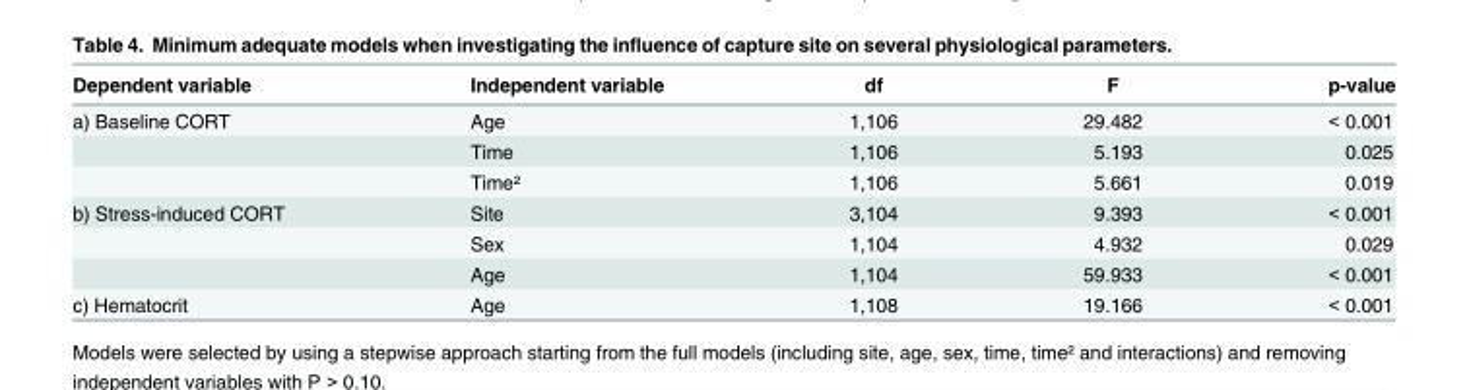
<table><thead><tr><td>Dependent variable</td><td>Independent variable</td><td>df</td><td>F</td><td>p-value</td></tr></thead><tbody><tr><td rowspan="3">a) Baseline CORT</td><td>Age</td><td>1,106</td><td>29.482</td><td>&lt; 0.001</td></tr><tr><td>Time</td><td>1,106</td><td>5.193</td><td>0.025</td></tr><tr><td>Time²</td><td>1,106</td><td>5.661</td><td>0.019</td></tr><tr><td rowspan="3">b) Stress-induced CORT</td><td>Site</td><td>3,104</td><td>9.393</td><td>&lt; 0.001</td></tr><tr><td>Sex</td><td>1,104</td><td>4.932</td><td>0.029</td></tr><tr><td>Age</td><td>1,104</td><td>59.933</td><td>&lt; 0.001</td></tr><tr><td>c) Hematocrit</td><td>Age</td><td>1,108</td><td>19.166</td><td>&lt; 0.001</td></tr></tbody></table>